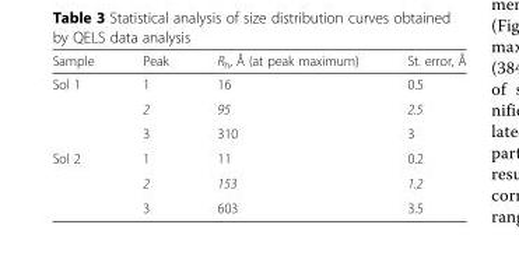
<table><thead><tr><td>Sample</td><td>Peak</td><td>R<sub>h</sub>, Å (at peak maximum)</td><td>St. error, Å</td></tr></thead><tbody><tr><td rowspan="3">Sol 1</td><td>1</td><td>16</td><td>0.5</td></tr><tr><td>2</td><td>95</td><td>2.5</td></tr><tr><td>3</td><td>310</td><td>3</td></tr><tr><td rowspan="3">Sol 2</td><td>1</td><td>11</td><td>0.2</td></tr><tr><td>2</td><td>153</td><td>1.2</td></tr><tr><td>3</td><td>603</td><td>3.5</td></tr></tbody></table>